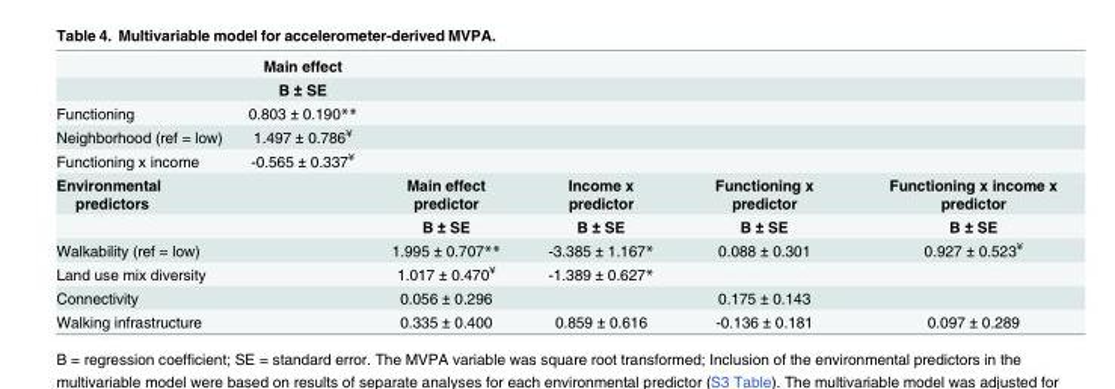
<table><thead><tr><td></td><td>Main effect</td><td></td><td></td><td></td><td></td></tr></thead><tbody><tr><td></td><td>B ± SE</td><td></td><td></td><td></td><td></td></tr><tr><td>Functioning</td><td>0.803 ± 0.190**</td><td></td><td></td><td></td><td></td></tr><tr><td>Neighborhood (ref = low)</td><td>1.497 ± 0.786<sup>¥</sup></td><td></td><td></td><td></td><td></td></tr><tr><td>Functioning x income</td><td>-0.565 ± 0.337<sup>¥</sup></td><td></td><td></td><td></td><td></td></tr><tr><td rowspan="2">Environmental predictors</td><td></td><td>Main effect predictor</td><td>Income x predictor</td><td>Functioning x predictor</td><td>Functioning x income x predictor</td></tr><tr><td></td><td>B ± SE</td><td>B ± SE</td><td>B ± SE</td><td>B ± SE</td></tr><tr><td>Walkability (ref = low)</td><td></td><td>1.995 ± 0.707**</td><td>-3.385 ± 1.167*</td><td>0.088 ± 0.301</td><td>0.927 ± 0.523<sup>¥</sup></td></tr><tr><td>Land use mix diversity</td><td></td><td>1.017 ± 0.470<sup>¥</sup></td><td>-1.389 ± 0.627*</td><td></td><td></td></tr><tr><td>Connectivity</td><td></td><td>0.056 ± 0.296</td><td></td><td>0.175 ± 0.143</td><td></td></tr><tr><td>Walking infrastructure</td><td></td><td>0.335 ± 0.400</td><td>0.859 ± 0.616</td><td>-0.136 ± 0.181</td><td>0.097 ± 0.289</td></tr></tbody></table>